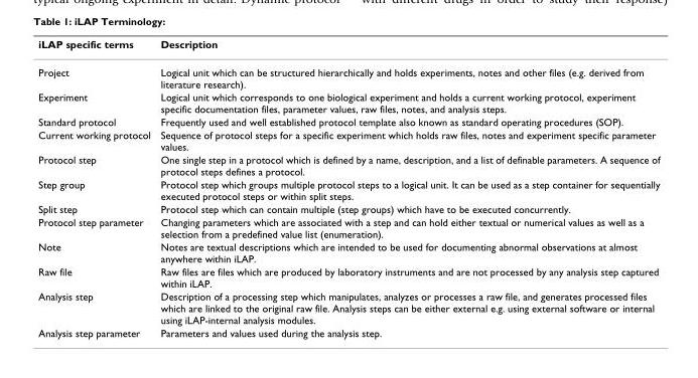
<table><thead><tr><td>iLAP specific terms</td><td>Description</td></tr></thead><tbody><tr><td>Project</td><td>Logical unit which can be structured hierarchically and holds experiments, notes and other files (e.g. derived from literature research).</td></tr><tr><td>Experiment</td><td>Logical unit which corresponds to one biological experiment and holds a current working protocol, experiment specific documentation files, parameter values, raw files, notes, and analysis steps.</td></tr><tr><td>Standard protocol</td><td>Frequently used and well established protocol template also known as standard operating procedures (SOP).</td></tr><tr><td>Current working protocol</td><td>Sequence of protocol steps for a specific experiment which holds raw files, notes and experiment specific parameter values.</td></tr><tr><td>Protocol step</td><td>One single step in a protocol which is defined by a name, description, and a list of definable parameters. A sequence of protocol steps defines a protocol.</td></tr><tr><td>Step group</td><td>Protocol step which groups multiple protocol steps to a logical unit. It can be used as a step container for sequentially executed protocol steps or within split steps.</td></tr><tr><td>Split step</td><td>Protocol step which can contain multiple (step groups) which have to be executed concurrently.</td></tr><tr><td>Protocol step parameter</td><td>Changing parameters which are associated with a step and can hold either textual or numerical values as well as a selection from a predefined value list (enumeration).</td></tr><tr><td>Note</td><td>Notes are textual descriptions which are intended to be used for documenting abnormal observations at almost anywhere within iLAP.</td></tr><tr><td>Raw file</td><td>Raw files are files which are produced by laboratory instruments and are not processed by any analysis step captured within iLAP.</td></tr><tr><td>Analysis step</td><td>Description of a processing step which manipulates, analyzes or processes a raw file, and generates processed files which are linked to the original raw file. Analysis steps can be either external e.g. using external software or internal using iLAP-internal analysis modules.</td></tr><tr><td>Analysis step parameter</td><td>Parameters and values used during the analysis step.</td></tr></tbody></table>